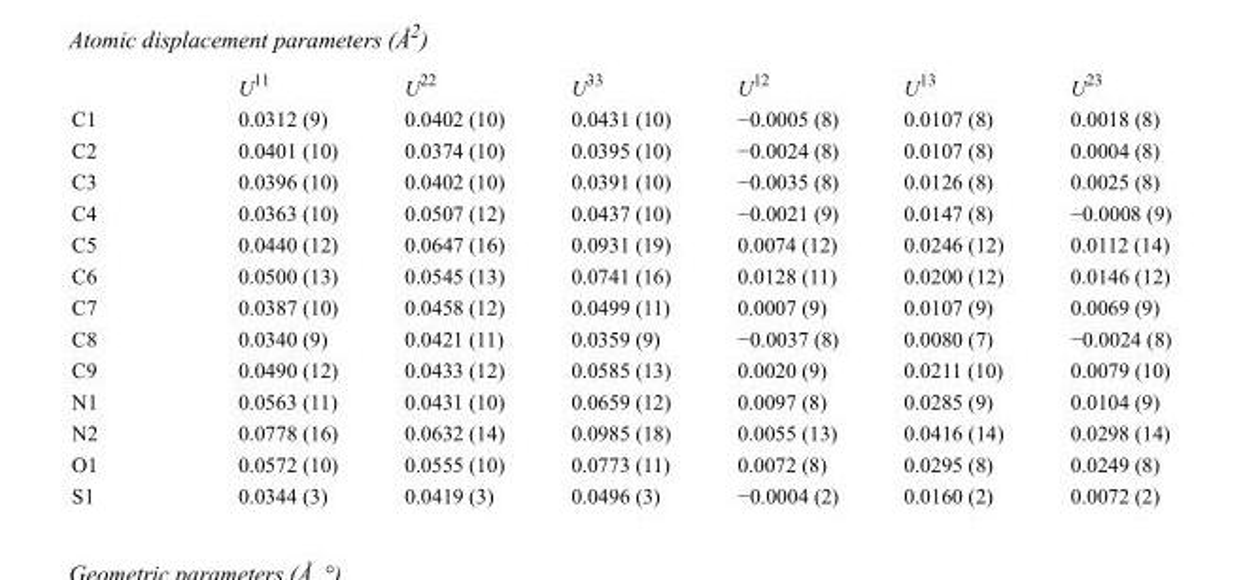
<table><thead><tr><td></td><td>U<sup>11</sup></td><td>U<sup>22</sup></td><td>U<sup>33</sup></td><td>U<sup>12</sup></td><td>U<sup>13</sup></td><td>U<sup>23</sup></td></tr></thead><tbody><tr><td>C1</td><td>0.0312 (9)</td><td>0.0402 (10)</td><td>0.0431 (10)</td><td>−0.0005 (8)</td><td>0.0107 (8)</td><td>0.0018 (8)</td></tr><tr><td>C2</td><td>0.0401 (10)</td><td>0.0374 (10)</td><td>0.0395 (10)</td><td>−0.0024 (8)</td><td>0.0107 (8)</td><td>0.0004 (8)</td></tr><tr><td>C3</td><td>0.0396 (10)</td><td>0.0402 (10)</td><td>0.0391 (10)</td><td>−0.0035 (8)</td><td>0.0126 (8)</td><td>0.0025 (8)</td></tr><tr><td>C4</td><td>0.0363 (10)</td><td>0.0507 (12)</td><td>0.0437 (10)</td><td>−0.0021 (9)</td><td>0.0147 (8)</td><td>−0.0008 (9)</td></tr><tr><td>C5</td><td>0.0440 (12)</td><td>0.0647 (16)</td><td>0.0931 (19)</td><td>0.0074 (12)</td><td>0.0246 (12)</td><td>0.0112 (14)</td></tr><tr><td>C6</td><td>0.0500 (13)</td><td>0.0545 (13)</td><td>0.0741 (16)</td><td>0.0128 (11)</td><td>0.0200 (12)</td><td>0.0146 (12)</td></tr><tr><td>C7</td><td>0.0387 (10)</td><td>0.0458 (12)</td><td>0.0499 (11)</td><td>0.0007 (9)</td><td>0.0107 (9)</td><td>0.0069 (9)</td></tr><tr><td>C8</td><td>0.0340 (9)</td><td>0.0421 (11)</td><td>0.0359 (9)</td><td>−0.0037 (8)</td><td>0.0080 (7)</td><td>−0.0024 (8)</td></tr><tr><td>C9</td><td>0.0490 (12)</td><td>0.0433 (12)</td><td>0.0585 (13)</td><td>0.0020 (9)</td><td>0.0211 (10)</td><td>0.0079 (10)</td></tr><tr><td>N1</td><td>0.0563 (11)</td><td>0.0431 (10)</td><td>0.0659 (12)</td><td>0.0097 (8)</td><td>0.0285 (9)</td><td>0.0104 (9)</td></tr><tr><td>N2</td><td>0.0778 (16)</td><td>0.0632 (14)</td><td>0.0985 (18)</td><td>0.0055 (13)</td><td>0.0416 (14)</td><td>0.0298 (14)</td></tr><tr><td>O1</td><td>0.0572 (10)</td><td>0.0555 (10)</td><td>0.0773 (11)</td><td>0.0072 (8)</td><td>0.0295 (8)</td><td>0.0249 (8)</td></tr><tr><td>S1</td><td>0.0344 (3)</td><td>0.0419 (3)</td><td>0.0496 (3)</td><td>−0.0004 (2)</td><td>0.0160 (2)</td><td>0.0072 (2)</td></tr></tbody></table>